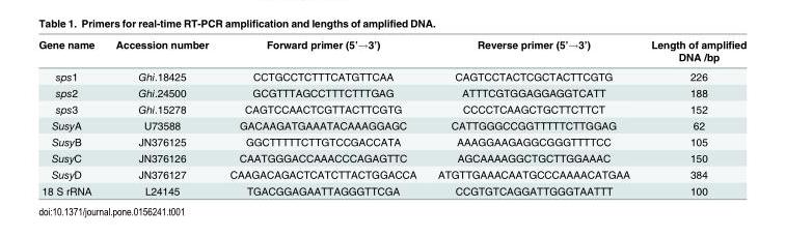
<table><thead><tr><td>Gene name</td><td>Accession number</td><td>Forward primer (5’→3’)</td><td>Reverse primer (5’→3’)</td><td>Length of amplified DNA /bp</td></tr></thead><tbody><tr><td>sps1</td><td>Ghi.18425</td><td>CCTGCCTCTTTCATGTTCAA</td><td>CAGTCCTACTCGCTACTTCGTG</td><td>226</td></tr><tr><td>sps2</td><td>Ghi.24500</td><td>GCGTTTAGCCTTTCTTTGAG</td><td>ATTTCGTGGAGGAGGTCATT</td><td>188</td></tr><tr><td>sps3</td><td>Ghi.15278</td><td>CAGTCCAACTCGTTACTTCGTG</td><td>CCCCTCAAGCTGCTTCTTCT</td><td>152</td></tr><tr><td>SusyA</td><td>U73588</td><td>GACAAGATGAAATACAAAGGAGC</td><td>CATTGGGCCGGTTTTTCTTGGAG</td><td>62</td></tr><tr><td>SusyB</td><td>JN376125</td><td>GGCTTTTTCTTGTCCGACCATA</td><td>AAAGGAAGAGGCGGGTTTTCC</td><td>105</td></tr><tr><td>SusyC</td><td>JN376126</td><td>CAATGGGACCAAACCCAGAGTTC</td><td>AGCAAAAGGCTGCTTGGAAAC</td><td>150</td></tr><tr><td>SusyD</td><td>JN376127</td><td>CAAGACAGACTCATCTTACTGGACCA</td><td>ATGTTGAAACAATGCCCAAAACATGAA</td><td>384</td></tr><tr><td>18 S rRNA</td><td>L24145</td><td>TGACGGAGAATTAGGGTTCGA</td><td>CCGTGTCAGGATTGGGTAATTT</td><td>100</td></tr></tbody></table>